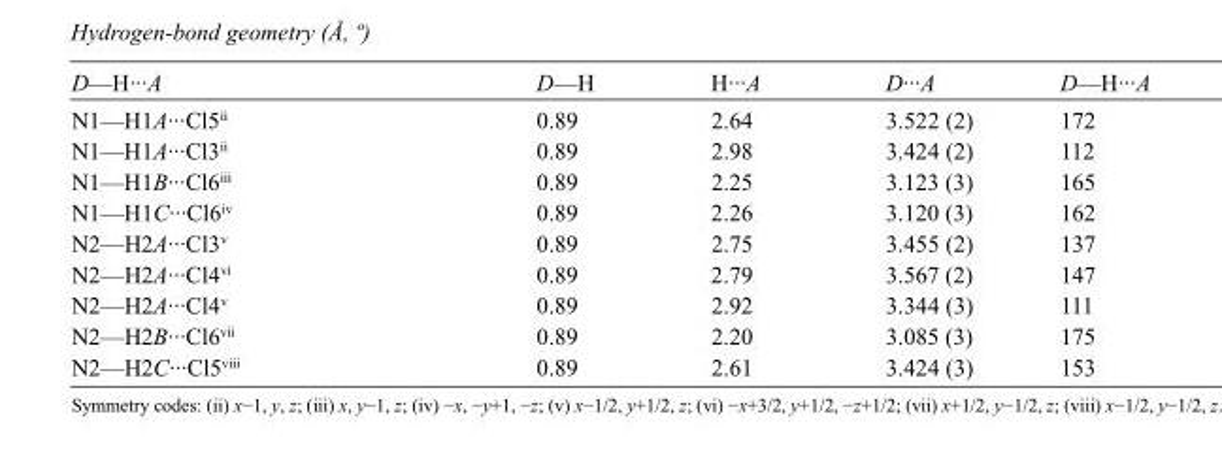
<table><tbody><tr><td>D—H···A</td><td>D—H</td><td>H···A</td><td>D···A</td><td>D—H···A</td></tr><tr><td>N1—H1A···Cl5<sup>ii</sup></td><td>0.89</td><td>2.64</td><td>3.522 (2)</td><td>172</td></tr><tr><td>N1—H1A···Cl3<sup>ii</sup></td><td>0.89</td><td>2.98</td><td>3.424 (2)</td><td>112</td></tr><tr><td>N1—H1B···Cl6<sup>iii</sup></td><td>0.89</td><td>2.25</td><td>3.123 (3)</td><td>165</td></tr><tr><td>N1—H1C···Cl6<sup>iv</sup></td><td>0.89</td><td>2.26</td><td>3.120 (3)</td><td>162</td></tr><tr><td>N2—H2A···Cl3<sup>v</sup></td><td>0.89</td><td>2.75</td><td>3.455 (2)</td><td>137</td></tr><tr><td>N2—H2A···Cl4<sup>vi</sup></td><td>0.89</td><td>2.79</td><td>3.567 (2)</td><td>147</td></tr><tr><td>N2—H2A···Cl4<sup>v</sup></td><td>0.89</td><td>2.92</td><td>3.344 (3)</td><td>111</td></tr><tr><td>N2—H2B···Cl6<sup>vii</sup></td><td>0.89</td><td>2.20</td><td>3.085 (3)</td><td>175</td></tr><tr><td>N2—H2C···Cl5<sup>viii</sup></td><td>0.89</td><td>2.61</td><td>3.424 (3)</td><td>153</td></tr></tbody></table>